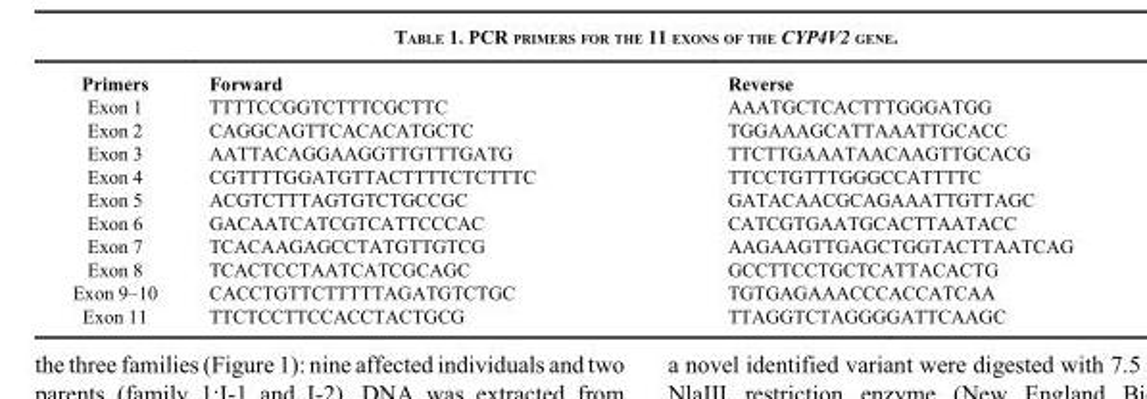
<table><thead><tr><td>Primers</td><td>Forward</td><td>Reverse</td></tr></thead><tbody><tr><td>Exon 1</td><td>TTTTCCGGTCTTTCGCTTC</td><td>AAATGCTCACTTTGGGATGG</td></tr><tr><td>Exon 2</td><td>CAGGCAGTTCACACATGCTC</td><td>TGGAAAGCATTAAATTGCACC</td></tr><tr><td>Exon 3</td><td>AATTACAGGAAGGTTGTTTGATG</td><td>TTCTTGAAATAACAAGTTGCACG</td></tr><tr><td>Exon 4</td><td>CGTTTTGGATGTTACTTTTCTCTTTC</td><td>TTCCTGTTTGGGCCATTTTC</td></tr><tr><td>Exon 5</td><td>ACGTCTTTAGTGTCTGCCGC</td><td>GATACAACGCAGAAATTGTTAGC</td></tr><tr><td>Exon 6</td><td>GACAATCATCGTCATTCCCAC</td><td>CATCGTGAATGCACTTAATACC</td></tr><tr><td>Exon 7</td><td>TCACAAGAGCCTATGTTGTCG</td><td>AAGAAGTTGAGCTGGTACTTAATCAG</td></tr><tr><td>Exon 8</td><td>TCACTCCTAATCATCGCAGC</td><td>GCCTTCCTGCTCATTACACTG</td></tr><tr><td>Exon 9–10</td><td>CACCTGTTCTTTTTAGATGTCTGC</td><td>TGTGAGAAACCCACCATCAA</td></tr><tr><td>Exon 11</td><td>TTCTCCTTCCACCTACTGCG</td><td>TTAGGTCTAGGGGATTCAAGC</td></tr></tbody></table>